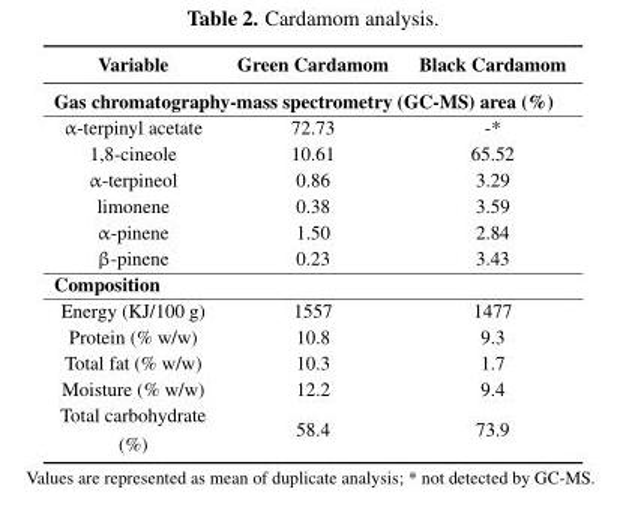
<table><thead><tr><td>Variable</td><td>Green Cardamom</td><td>Black Cardamom</td></tr></thead><tbody><tr><td colspan="3">Gas chromatography-mass spectrometry (GC-MS) area (%)</td></tr><tr><td>α-terpinyl acetate</td><td>72.73</td><td>-*</td></tr><tr><td>1,8-cineole</td><td>10.61</td><td>65.52</td></tr><tr><td>α-terpineol</td><td>0.86</td><td>3.29</td></tr><tr><td>limonene</td><td>0.38</td><td>3.59</td></tr><tr><td>α-pinene</td><td>1.50</td><td>2.84</td></tr><tr><td>β-pinene</td><td>0.23</td><td>3.43</td></tr><tr><td colspan="3">Composition</td></tr><tr><td>Energy (KJ/100 g)</td><td>1557</td><td>1477</td></tr><tr><td>Protein (% w/w)</td><td>10.8</td><td>9.3</td></tr><tr><td>Total fat (% w/w)</td><td>10.3</td><td>1.7</td></tr><tr><td>Moisture (% w/w)</td><td>12.2</td><td>9.4</td></tr><tr><td>Total carbohydrate (%)</td><td>58.4</td><td>73.9</td></tr></tbody></table>